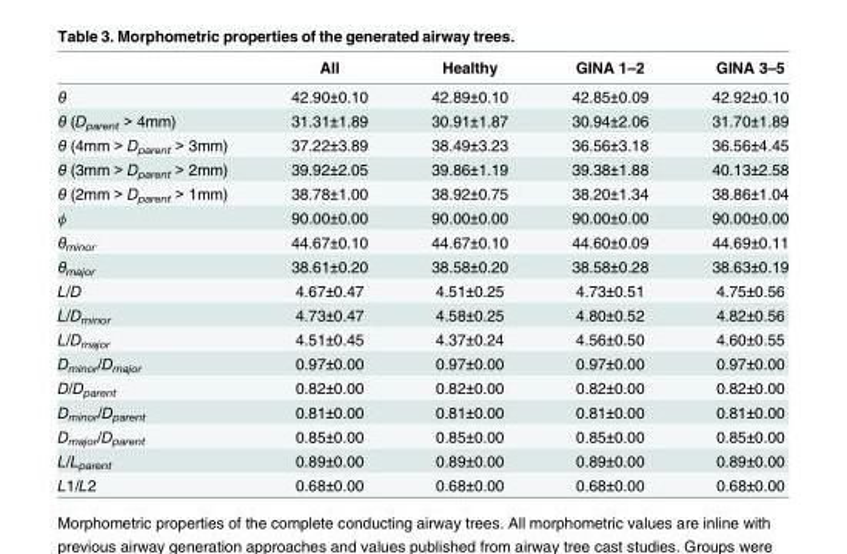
<table><thead><tr><td></td><td>All</td><td>Healthy</td><td>GINA 1–2</td><td>GINA 3–5</td></tr></thead><tbody><tr><td>θ</td><td>42.90±0.10</td><td>42.89±0.10</td><td>42.85±0.09</td><td>42.92±0.10</td></tr><tr><td>θ (D<sub>parent</sub> &gt; 4mm)</td><td>31.31±1.89</td><td>30.91±1.87</td><td>30.94±2.06</td><td>31.70±1.89</td></tr><tr><td>θ (4mm &gt; D<sub>parent</sub> &gt; 3mm)</td><td>37.22±3.89</td><td>38.49±3.23</td><td>36.56±3.18</td><td>36.56±4.45</td></tr><tr><td>θ (3mm &gt; D<sub>parent</sub> &gt; 2mm)</td><td>39.92±2.05</td><td>39.86±1.19</td><td>39.38±1.88</td><td>40.13±2.58</td></tr><tr><td>θ (2mm &gt; D<sub>parent</sub> &gt; 1mm)</td><td>38.78±1.00</td><td>38.92±0.75</td><td>38.20±1.34</td><td>38.86±1.04</td></tr><tr><td>ϕ</td><td>90.00±0.00</td><td>90.00±0.00</td><td>90.00±0.00</td><td>90.00±0.00</td></tr><tr><td>θ<sub>minor</sub></td><td>44.67±0.10</td><td>44.67±0.10</td><td>44.60±0.09</td><td>44.69±0.11</td></tr><tr><td>θ<sub>major</sub></td><td>38.61±0.20</td><td>38.58±0.20</td><td>38.58±0.28</td><td>38.63±0.19</td></tr><tr><td>L/D</td><td>4.67±0.47</td><td>4.51±0.25</td><td>4.73±0.51</td><td>4.75±0.56</td></tr><tr><td>L/D<sub>minor</sub></td><td>4.73±0.47</td><td>4.58±0.25</td><td>4.80±0.52</td><td>4.82±0.56</td></tr><tr><td>L/D<sub>major</sub></td><td>4.51±0.45</td><td>4.37±0.24</td><td>4.56±0.50</td><td>4.60±0.55</td></tr><tr><td>D<sub>minor</sub>/D<sub>major</sub></td><td>0.97±0.00</td><td>0.97±0.00</td><td>0.97±0.00</td><td>0.97±0.00</td></tr><tr><td>D/D<sub>parent</sub></td><td>0.82±0.00</td><td>0.82±0.00</td><td>0.82±0.00</td><td>0.82±0.00</td></tr><tr><td>D<sub>minor</sub>/D<sub>parent</sub></td><td>0.81±0.00</td><td>0.81±0.00</td><td>0.81±0.00</td><td>0.81±0.00</td></tr><tr><td>D<sub>major</sub>/D<sub>parent</sub></td><td>0.85±0.00</td><td>0.85±0.00</td><td>0.85±0.00</td><td>0.85±0.00</td></tr><tr><td>L/L<sub>parent</sub></td><td>0.89±0.00</td><td>0.89±0.00</td><td>0.89±0.00</td><td>0.89±0.00</td></tr><tr><td>L1/L2</td><td>0.68±0.00</td><td>0.68±0.00</td><td>0.68±0.00</td><td>0.68±0.00</td></tr></tbody></table>